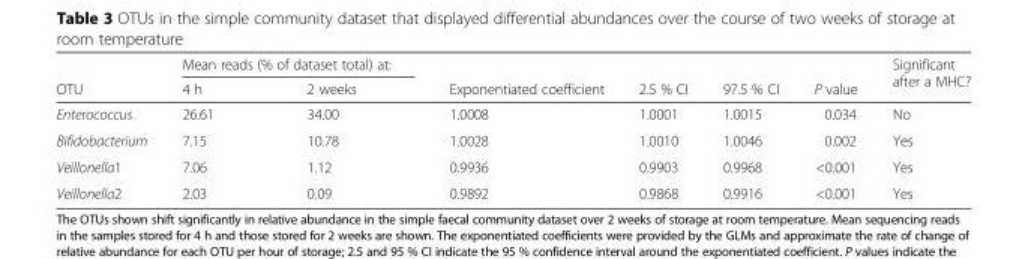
<table><thead><tr><td rowspan="2">OTU</td><td colspan="2">Mean reads (% of dataset total) at:</td><td rowspan="2">Exponentiated coefficient</td><td rowspan="2">2.5 % CI</td><td rowspan="2">97.5 % CI</td><td rowspan="2">P value</td><td rowspan="2">Significant after a MHC?</td></tr><tr><td>4 h</td><td>2 weeks</td></tr></thead><tbody><tr><td>Enterococcus</td><td>26.61</td><td>34.00</td><td>1.0008</td><td>1.0001</td><td>1.0015</td><td>0.034</td><td>No</td></tr><tr><td>Bifidobacterium</td><td>7.15</td><td>10.78</td><td>1.0028</td><td>1.0010</td><td>1.0046</td><td>0.002</td><td>Yes</td></tr><tr><td>Veillonella1</td><td>7.06</td><td>1.12</td><td>0.9936</td><td>0.9903</td><td>0.9968</td><td>&lt;0.001</td><td>Yes</td></tr><tr><td>Veillonella2</td><td>2.03</td><td>0.09</td><td>0.9892</td><td>0.9868</td><td>0.9916</td><td>&lt;0.001</td><td>Yes</td></tr></tbody></table>